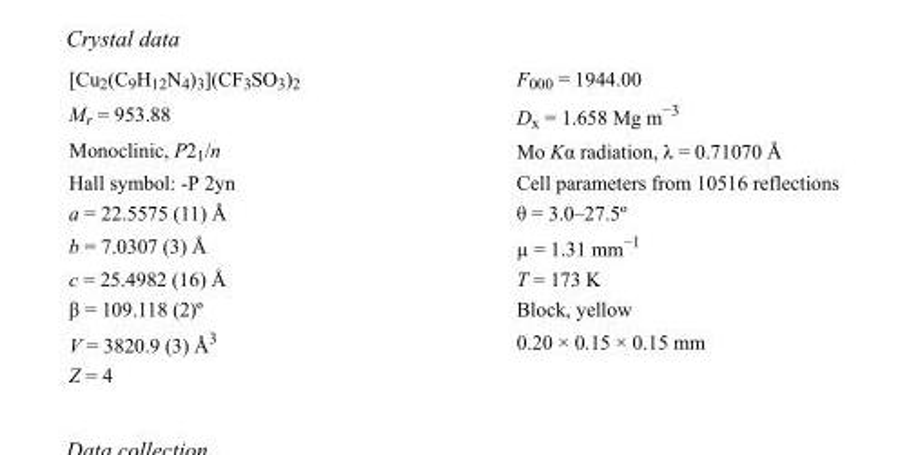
<table><tbody><tr><td>[Cu<sub>2</sub>(C<sub>9</sub>H<sub>12</sub>N<sub>4</sub>)<sub>3</sub>](CF<sub>3</sub>SO<sub>3</sub>)<sub>2</sub></td><td>F000 = 1944.00</td></tr><tr><td>M<sub>r</sub> = 953.88</td><td>D<sub>x</sub> = 1.658 Mg m<sup>−3</sup></td></tr><tr><td>Monoclinic, P2<sub>1</sub>/n</td><td>Mo Kα radiation, λ = 0.71070 Å</td></tr><tr><td>Hall symbol: -P 2yn</td><td>Cell parameters from 10516 reflections</td></tr><tr><td>a = 22.5575 (11) Å</td><td>θ = 3.0–27.5º</td></tr><tr><td>b = 7.0307 (3) Å</td><td>µ = 1.31 mm<sup>−1</sup></td></tr><tr><td>c = 25.4982 (16) Å</td><td>T = 173 K</td></tr><tr><td>β = 109.118 (2)º</td><td>Block, yellow</td></tr><tr><td>V = 3820.9 (3) Å<sup>3</sup></td><td>0.20 × 0.15 × 0.15 mm</td></tr><tr><td>Z = 4</td><td></td></tr></tbody></table>